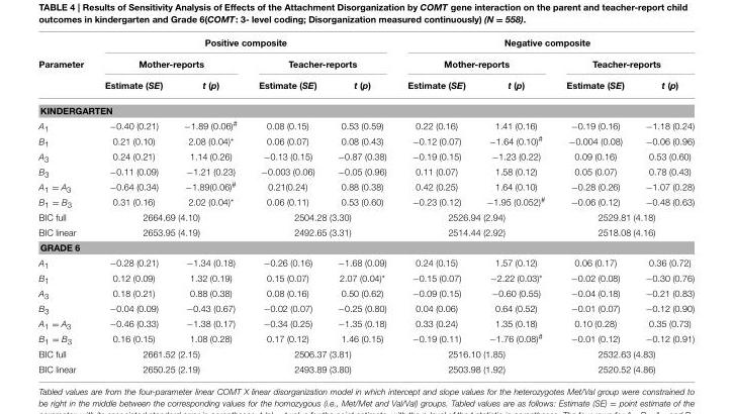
<table><thead><tr><td rowspan="3">Parameter</td><td colspan="4">Positive composite</td><td colspan="4">Negative composite</td></tr><tr><td colspan="2">Mother-reports</td><td colspan="2">Teacher-reports</td><td colspan="2">Mother-reports</td><td colspan="2">Teacher-reports</td></tr><tr><td>Estimate (SE)</td><td>t (p)</td><td>Estimate (SE)</td><td>t (p)</td><td>Estimate (SE)</td><td>t (p)</td><td>Estimate (SE)</td><td>t (p)</td></tr></thead><tbody><tr><td colspan="9">KINDERGARTEN</td></tr><tr><td>A1</td><td>−0.40 (0.21)</td><td>−1.89 (0.06)<sup>#</sup></td><td>0.08 (0.15)</td><td>0.53 (0.59)</td><td>0.22 (0.16)</td><td>1.41 (0.16)</td><td>−0.19 (0.16)</td><td>−1.18 (0.24)</td></tr><tr><td>B1</td><td>0.21 (0.10)</td><td>2.08 (0.04)*</td><td>0.06 (0.07)</td><td>0.08 (0.43)</td><td>−0.12 (0.07)</td><td>−1.64 (0.10)<sup>#</sup></td><td>−0.004 (0.08)</td><td>−0.06 (0.96)</td></tr><tr><td>A3</td><td>0.24 (0.21)</td><td>1.14 (0.26)</td><td>−0.13 (0.15)</td><td>−0.87 (0.38)</td><td>−0.19 (0.15)</td><td>−1.23 (0.22)</td><td>0.09 (0.16)</td><td>0.53 (0.60)</td></tr><tr><td>B3</td><td>−0.11 (0.09)</td><td>−1.21 (0.23)</td><td>−0.003 (0.06)</td><td>−0.05 (0.96)</td><td>0.11 (0.07)</td><td>1.58 (0.12)</td><td>0.05 (0.07)</td><td>0.78 (0.43)</td></tr><tr><td>A1 = A3</td><td>−0.64 (0.34)</td><td>−1.89(0.06)<sup>#</sup></td><td>0.21(0.24)</td><td>0.88 (0.38)</td><td>0.42 (0.25)</td><td>1.64 (0.10)</td><td>−0.28 (0.26)</td><td>−1.07 (0.28)</td></tr><tr><td>B1 = B<sub>3</sub></td><td>0.31 (0.16)</td><td>2.02 (0.04)*</td><td>0.06 (0.11)</td><td>0.53 (0.60)</td><td>−0.23 (0.12)</td><td>−1.95 (0.052)<sup>#</sup></td><td>−0.06 (0.12)</td><td>−0.48 (0.63)</td></tr><tr><td>BIC full</td><td colspan="2">2664.69 (4.10)</td><td colspan="2">2504.28 (3.30)</td><td colspan="2">2526.94 (2.94)</td><td colspan="2">2529.81 (4.18)</td></tr><tr><td>BIC linear</td><td colspan="2">2653.95 (4.19)</td><td colspan="2">2492.65 (3.31)</td><td colspan="2">2514.44 (2.92)</td><td colspan="2">2518.08 (4.16)</td></tr><tr><td colspan="9">GRADE 6</td></tr><tr><td>A1</td><td>−0.28 (0.21)</td><td>−1.34 (0.18)</td><td>−0.26 (0.16)</td><td>−1.68 (0.09)</td><td>0.24 (0.15)</td><td>1.57 (0.12)</td><td>0.06 (0.17)</td><td>0.36 (0.72)</td></tr><tr><td>B1</td><td>0.12 (0.09)</td><td>1.32 (0.19)</td><td>0.15 (0.07)</td><td>2.07 (0.04)*</td><td>−0.15 (0.07)</td><td>−2.22 (0.03)*</td><td>−0.02 (0.08)</td><td>−0.30 (0.76)</td></tr><tr><td>A3</td><td>0.18 (0.21)</td><td>0.88 (0.38)</td><td>0.08 (0.16)</td><td>0.50 (0.62)</td><td>−0.09 (0.15)</td><td>−0.60 (0.55)</td><td>−0.04 (0.18)</td><td>−0.21 (0.83)</td></tr><tr><td>B3</td><td>−0.04 (0.09)</td><td>−0.43 (0.67)</td><td>−0.02 (0.07)</td><td>−0.25 (0.80)</td><td>0.04 (0.06)</td><td>0.64 (0.52)</td><td>−0.01 (0.07)</td><td>−0.12 (0.90)</td></tr><tr><td>A1 = A<sub>3</sub></td><td>−0.46 (0.33)</td><td>−1.38 (0.17)</td><td>−0.34 (0.25)</td><td>−1.35 (0.18)</td><td>0.33 (0.24)</td><td>1.35 (0.18)</td><td>0.10 (0.28)</td><td>0.35 (0.73)</td></tr><tr><td>B1 = B<sub>3</sub></td><td>0.16 (0.15)</td><td>1.08 (0.28)</td><td>0.17 (0.12)</td><td>1.46 (0.15)</td><td>−0.19 (0.11)</td><td>−1.76 (0.08)<sup>#</sup></td><td>−0.01 (0.12)</td><td>−0.12 (0.91)</td></tr><tr><td>BIC full</td><td colspan="2">2661.52 (2.15)</td><td colspan="2">2506.37 (3.81)</td><td colspan="2">2516.10 (1.85)</td><td colspan="2">2532.63 (4.83)</td></tr><tr><td>BIC linear</td><td colspan="2">2650.25 (2.19)</td><td colspan="2">2493.89 (3.80)</td><td colspan="2">2503.98 (1.92)</td><td colspan="2">2520.52 (4.86)</td></tr></tbody></table>